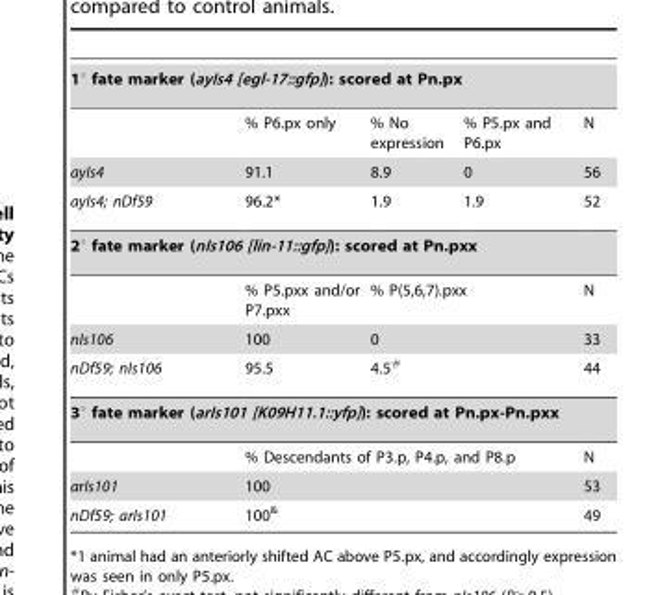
<table><tbody><tr><td colspan="5">1° fate marker (ayIs4 [egl-17::gfp]): scored at Pn.px</td></tr><tr><td></td><td>% P6.px only</td><td>% No expression</td><td>% P5.px and P6.px</td><td>N</td></tr><tr><td>ayIs4</td><td>91.1</td><td>8.9</td><td>0</td><td>56</td></tr><tr><td>ayIs4; nDf59</td><td>96.2*</td><td>1.9</td><td>1.9</td><td>52</td></tr><tr><td colspan="5">2° fate marker (nIs106 [lin-11::gfp]): scored at Pn.pxx</td></tr><tr><td></td><td>% P5.pxx and/or P7.pxx</td><td colspan="2">% P(5,6,7).pxx</td><td>N</td></tr><tr><td>nIs106</td><td>100</td><td colspan="2">0</td><td>33</td></tr><tr><td>nDf59; nIs106</td><td>95.5</td><td colspan="2">4.5#</td><td>44</td></tr><tr><td colspan="5">3° fate marker (arIs101 [K09H11.1::yfp]): scored at Pn.px-Pn.pxx</td></tr><tr><td></td><td colspan="3">% Descendants of P3.p, P4.p, and P8.p</td><td>N</td></tr><tr><td>arIs101</td><td colspan="3">100</td><td>53</td></tr><tr><td>nDf59; arIs101</td><td colspan="3">100&amp;</td><td>49</td></tr></tbody></table>